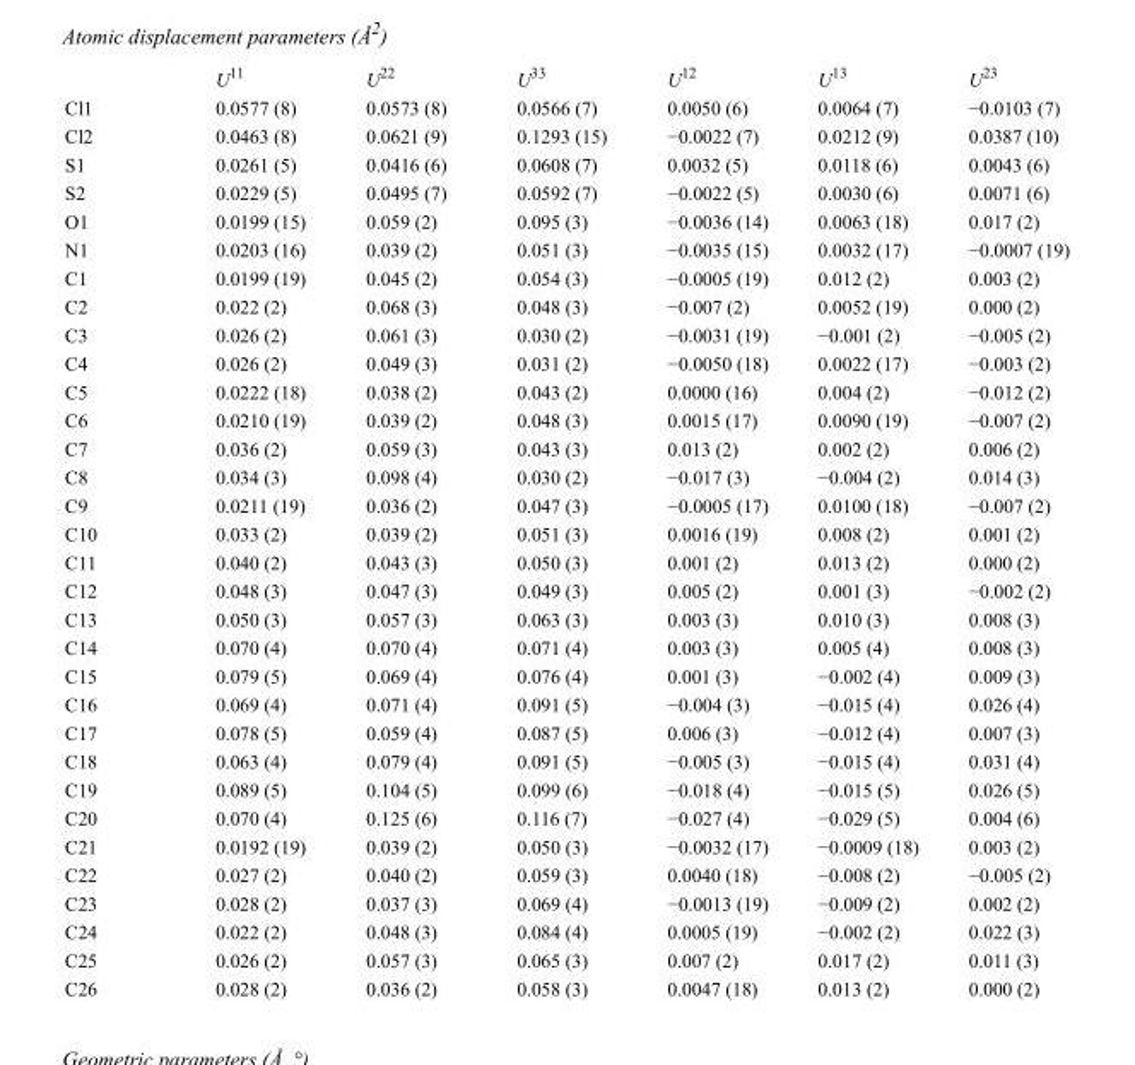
<table><thead><tr><td></td><td>U<sup>11</sup></td><td>U<sup>22</sup></td><td>U<sup>33</sup></td><td>U<sup>12</sup></td><td>U<sup>13</sup></td><td>U<sup>23</sup></td></tr></thead><tbody><tr><td>Cl1</td><td>0.0577 (8)</td><td>0.0573 (8)</td><td>0.0566 (7)</td><td>0.0050 (6)</td><td>0.0064 (7)</td><td>−0.0103 (7)</td></tr><tr><td>Cl2</td><td>0.0463 (8)</td><td>0.0621 (9)</td><td>0.1293 (15)</td><td>−0.0022 (7)</td><td>0.0212 (9)</td><td>0.0387 (10)</td></tr><tr><td>S1</td><td>0.0261 (5)</td><td>0.0416 (6)</td><td>0.0608 (7)</td><td>0.0032 (5)</td><td>0.0118 (6)</td><td>0.0043 (6)</td></tr><tr><td>S2</td><td>0.0229 (5)</td><td>0.0495 (7)</td><td>0.0592 (7)</td><td>−0.0022 (5)</td><td>0.0030 (6)</td><td>0.0071 (6)</td></tr><tr><td>O1</td><td>0.0199 (15)</td><td>0.059 (2)</td><td>0.095 (3)</td><td>−0.0036 (14)</td><td>0.0063 (18)</td><td>0.017 (2)</td></tr><tr><td>N1</td><td>0.0203 (16)</td><td>0.039 (2)</td><td>0.051 (3)</td><td>−0.0035 (15)</td><td>0.0032 (17)</td><td>−0.0007 (19)</td></tr><tr><td>C1</td><td>0.0199 (19)</td><td>0.045 (2)</td><td>0.054 (3)</td><td>−0.0005 (19)</td><td>0.012 (2)</td><td>0.003 (2)</td></tr><tr><td>C2</td><td>0.022 (2)</td><td>0.068 (3)</td><td>0.048 (3)</td><td>−0.007 (2)</td><td>0.0052 (19)</td><td>0.000 (2)</td></tr><tr><td>C3</td><td>0.026 (2)</td><td>0.061 (3)</td><td>0.030 (2)</td><td>−0.0031 (19)</td><td>−0.001 (2)</td><td>−0.005 (2)</td></tr><tr><td>C4</td><td>0.026 (2)</td><td>0.049 (3)</td><td>0.031 (2)</td><td>−0.0050 (18)</td><td>0.0022 (17)</td><td>−0.003 (2)</td></tr><tr><td>C5</td><td>0.0222 (18)</td><td>0.038 (2)</td><td>0.043 (2)</td><td>0.0000 (16)</td><td>0.004 (2)</td><td>−0.012 (2)</td></tr><tr><td>C6</td><td>0.0210 (19)</td><td>0.039 (2)</td><td>0.048 (3)</td><td>0.0015 (17)</td><td>0.0090 (19)</td><td>−0.007 (2)</td></tr><tr><td>C7</td><td>0.036 (2)</td><td>0.059 (3)</td><td>0.043 (3)</td><td>0.013 (2)</td><td>0.002 (2)</td><td>0.006 (2)</td></tr><tr><td>C8</td><td>0.034 (3)</td><td>0.098 (4)</td><td>0.030 (2)</td><td>−0.017 (3)</td><td>−0.004 (2)</td><td>0.014 (3)</td></tr><tr><td>C9</td><td>0.0211 (19)</td><td>0.036 (2)</td><td>0.047 (3)</td><td>−0.0005 (17)</td><td>0.0100 (18)</td><td>−0.007 (2)</td></tr><tr><td>C10</td><td>0.033 (2)</td><td>0.039 (2)</td><td>0.051 (3)</td><td>0.0016 (19)</td><td>0.008 (2)</td><td>0.001 (2)</td></tr><tr><td>C11</td><td>0.040 (2)</td><td>0.043 (3)</td><td>0.050 (3)</td><td>0.001 (2)</td><td>0.013 (2)</td><td>0.000 (2)</td></tr><tr><td>C12</td><td>0.048 (3)</td><td>0.047 (3)</td><td>0.049 (3)</td><td>0.005 (2)</td><td>0.001 (3)</td><td>−0.002 (2)</td></tr><tr><td>C13</td><td>0.050 (3)</td><td>0.057 (3)</td><td>0.063 (3)</td><td>0.003 (3)</td><td>0.010 (3)</td><td>0.008 (3)</td></tr><tr><td>C14</td><td>0.070 (4)</td><td>0.070 (4)</td><td>0.071 (4)</td><td>0.003 (3)</td><td>0.005 (4)</td><td>0.008 (3)</td></tr><tr><td>C15</td><td>0.079 (5)</td><td>0.069 (4)</td><td>0.076 (4)</td><td>0.001 (3)</td><td>−0.002 (4)</td><td>0.009 (3)</td></tr><tr><td>C16</td><td>0.069 (4)</td><td>0.071 (4)</td><td>0.091 (5)</td><td>−0.004 (3)</td><td>−0.015 (4)</td><td>0.026 (4)</td></tr><tr><td>C17</td><td>0.078 (5)</td><td>0.059 (4)</td><td>0.087 (5)</td><td>0.006 (3)</td><td>−0.012 (4)</td><td>0.007 (3)</td></tr><tr><td>C18</td><td>0.063 (4)</td><td>0.079 (4)</td><td>0.091 (5)</td><td>−0.005 (3)</td><td>−0.015 (4)</td><td>0.031 (4)</td></tr><tr><td>C19</td><td>0.089 (5)</td><td>0.104 (5)</td><td>0.099 (6)</td><td>−0.018 (4)</td><td>−0.015 (5)</td><td>0.026 (5)</td></tr><tr><td>C20</td><td>0.070 (4)</td><td>0.125 (6)</td><td>0.116 (7)</td><td>−0.027 (4)</td><td>−0.029 (5)</td><td>0.004 (6)</td></tr><tr><td>C21</td><td>0.0192 (19)</td><td>0.039 (2)</td><td>0.050 (3)</td><td>−0.0032 (17)</td><td>−0.0009 (18)</td><td>0.003 (2)</td></tr><tr><td>C22</td><td>0.027 (2)</td><td>0.040 (2)</td><td>0.059 (3)</td><td>0.0040 (18)</td><td>−0.008 (2)</td><td>−0.005 (2)</td></tr><tr><td>C23</td><td>0.028 (2)</td><td>0.037 (3)</td><td>0.069 (4)</td><td>−0.0013 (19)</td><td>−0.009 (2)</td><td>0.002 (2)</td></tr><tr><td>C24</td><td>0.022 (2)</td><td>0.048 (3)</td><td>0.084 (4)</td><td>0.0005 (19)</td><td>−0.002 (2)</td><td>0.022 (3)</td></tr><tr><td>C25</td><td>0.026 (2)</td><td>0.057 (3)</td><td>0.065 (3)</td><td>0.007 (2)</td><td>0.017 (2)</td><td>0.011 (3)</td></tr><tr><td>C26</td><td>0.028 (2)</td><td>0.036 (2)</td><td>0.058 (3)</td><td>0.0047 (18)</td><td>0.013 (2)</td><td>0.000 (2)</td></tr></tbody></table>